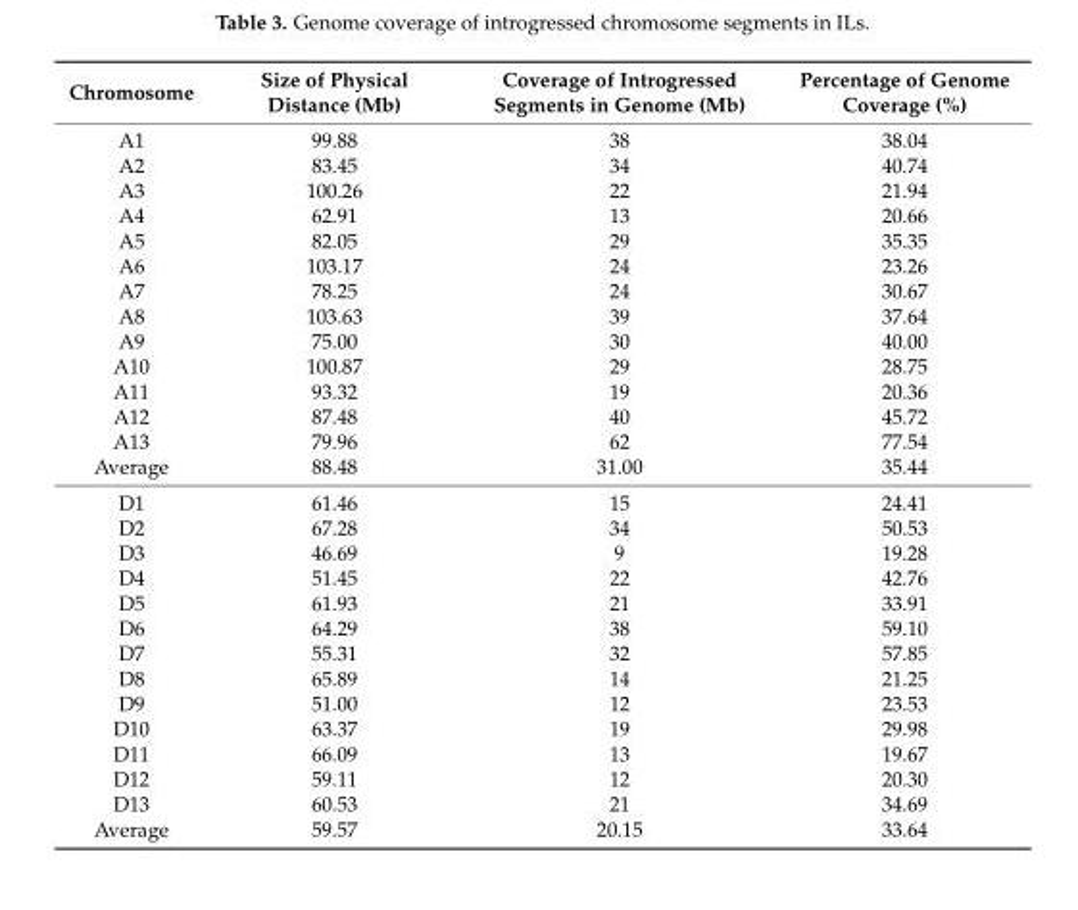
<table><thead><tr><td>Chromosome</td><td>Size of Physical Distance (Mb)</td><td>Coverage of Introgressed Segments in Genome (Mb)</td><td>Percentage of Genome Coverage (%)</td></tr></thead><tbody><tr><td>A1</td><td>99.88</td><td>38</td><td>38.04</td></tr><tr><td>A2</td><td>83.45</td><td>34</td><td>40.74</td></tr><tr><td>A3</td><td>100.26</td><td>22</td><td>21.94</td></tr><tr><td>A4</td><td>62.91</td><td>13</td><td>20.66</td></tr><tr><td>A5</td><td>82.05</td><td>29</td><td>35.35</td></tr><tr><td>A6</td><td>103.17</td><td>24</td><td>23.26</td></tr><tr><td>A7</td><td>78.25</td><td>24</td><td>30.67</td></tr><tr><td>A8</td><td>103.63</td><td>39</td><td>37.64</td></tr><tr><td>A9</td><td>75.00</td><td>30</td><td>40.00</td></tr><tr><td>A10</td><td>100.87</td><td>29</td><td>28.75</td></tr><tr><td>A11</td><td>93.32</td><td>19</td><td>20.36</td></tr><tr><td>A12</td><td>87.48</td><td>40</td><td>45.72</td></tr><tr><td>A13</td><td>79.96</td><td>62</td><td>77.54</td></tr><tr><td>Average</td><td>88.48</td><td>31.00</td><td>35.44</td></tr><tr><td>D1</td><td>61.46</td><td>15</td><td>24.41</td></tr><tr><td>D2</td><td>67.28</td><td>34</td><td>50.53</td></tr><tr><td>D3</td><td>46.69</td><td>9</td><td>19.28</td></tr><tr><td>D4</td><td>51.45</td><td>22</td><td>42.76</td></tr><tr><td>D5</td><td>61.93</td><td>21</td><td>33.91</td></tr><tr><td>D6</td><td>64.29</td><td>38</td><td>59.10</td></tr><tr><td>D7</td><td>55.31</td><td>32</td><td>57.85</td></tr><tr><td>D8</td><td>65.89</td><td>14</td><td>21.25</td></tr><tr><td>D9</td><td>51.00</td><td>12</td><td>23.53</td></tr><tr><td>D10</td><td>63.37</td><td>19</td><td>29.98</td></tr><tr><td>D11</td><td>66.09</td><td>13</td><td>19.67</td></tr><tr><td>D12</td><td>59.11</td><td>12</td><td>20.30</td></tr><tr><td>D13</td><td>60.53</td><td>21</td><td>34.69</td></tr><tr><td>Average</td><td>59.57</td><td>20.15</td><td>33.64</td></tr></tbody></table>